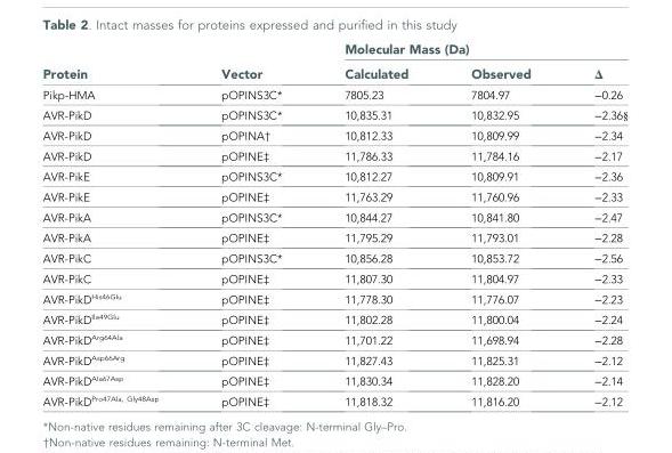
<table><thead><tr><td rowspan="2">Protein</td><td rowspan="2">Vector</td><td colspan="3">Molecular Mass (Da)</td></tr><tr><td>Calculated</td><td>Observed</td><td>Δ</td></tr></thead><tbody><tr><td>Pikp-HMA</td><td>pOPINS3C*</td><td>7805.23</td><td>7804.97</td><td>−0.26</td></tr><tr><td>AVR-PikD</td><td>pOPINS3C*</td><td>10,835.31</td><td>10,832.95</td><td>−2.36§</td></tr><tr><td>AVR-PikD</td><td>pOPINA†</td><td>10,812.33</td><td>10,809.99</td><td>−2.34</td></tr><tr><td>AVR-PikD</td><td>pOPINE‡</td><td>11,786.33</td><td>11,784.16</td><td>−2.17</td></tr><tr><td>AVR-PikE</td><td>pOPINS3C*</td><td>10,812.27</td><td>10,809.91</td><td>−2.36</td></tr><tr><td>AVR-PikE</td><td>pOPINE‡</td><td>11,763.29</td><td>11,760.96</td><td>−2.33</td></tr><tr><td>AVR-PikA</td><td>pOPINS3C*</td><td>10,844.27</td><td>10,841.80</td><td>−2.47</td></tr><tr><td>AVR-PikA</td><td>pOPINE‡</td><td>11,795.29</td><td>11,793.01</td><td>−2.28</td></tr><tr><td>AVR-PikC</td><td>pOPINS3C*</td><td>10,856.28</td><td>10,853.72</td><td>−2.56</td></tr><tr><td>AVR-PikC</td><td>pOPINE‡</td><td>11,807.30</td><td>11,804.97</td><td>−2.33</td></tr><tr><td>AVR-PikD<sup>His46Glu</sup></td><td>pOPINE‡</td><td>11,778.30</td><td>11,776.07</td><td>−2.23</td></tr><tr><td>AVR-PikD<sup>Ile49Glu</sup></td><td>pOPINE‡</td><td>11,802.28</td><td>11,800.04</td><td>−2.24</td></tr><tr><td>AVR-PikD<sup>Arg64Ala</sup></td><td>pOPINE‡</td><td>11,701.22</td><td>11,698.94</td><td>−2.28</td></tr><tr><td>AVR-PikD<sup>Asp66Arg</sup></td><td>pOPINE‡</td><td>11,827.43</td><td>11,825.31</td><td>−2.12</td></tr><tr><td>AVR-PikD<sup>Ala67Asp</sup></td><td>pOPINE‡</td><td>11,830.34</td><td>11,828.20</td><td>−2.14</td></tr><tr><td>AVR-PikD<sup>Pro47Ala, Gly48Asp</sup></td><td>pOPINE‡</td><td>11,818.32</td><td>11,816.20</td><td>−2.12</td></tr></tbody></table>